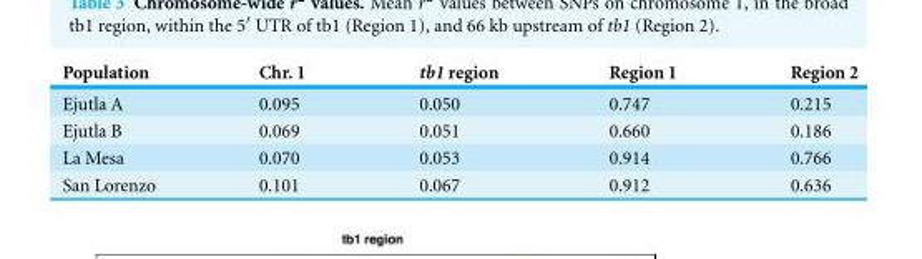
<table><thead><tr><td>Population</td><td>Chr. 1</td><td>tb1 region</td><td>Region 1</td><td>Region 2</td></tr></thead><tbody><tr><td>Ejutla A</td><td>0.095</td><td>0.050</td><td>0.747</td><td>0.215</td></tr><tr><td>Ejutla B</td><td>0.069</td><td>0.051</td><td>0.660</td><td>0.186</td></tr><tr><td>La Mesa</td><td>0.070</td><td>0.053</td><td>0.914</td><td>0.766</td></tr><tr><td>San Lorenzo</td><td>0.101</td><td>0.067</td><td>0.912</td><td>0.636</td></tr></tbody></table>